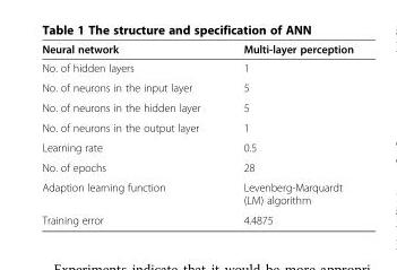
<table><thead><tr><td>Neural network</td><td>Multi-layer perception</td></tr></thead><tbody><tr><td>No. of hidden layers</td><td>1</td></tr><tr><td>No. of neurons in the input layer</td><td>5</td></tr><tr><td>No. of neurons in the hidden layer</td><td>5</td></tr><tr><td>No. of neurons in the output layer</td><td>1</td></tr><tr><td>Learning rate</td><td>0.5</td></tr><tr><td>No. of epochs</td><td>28</td></tr><tr><td>Adaption learning function</td><td>Levenberg-Marquardt (LM) algorithm</td></tr><tr><td>Training error</td><td>4.4875</td></tr></tbody></table>